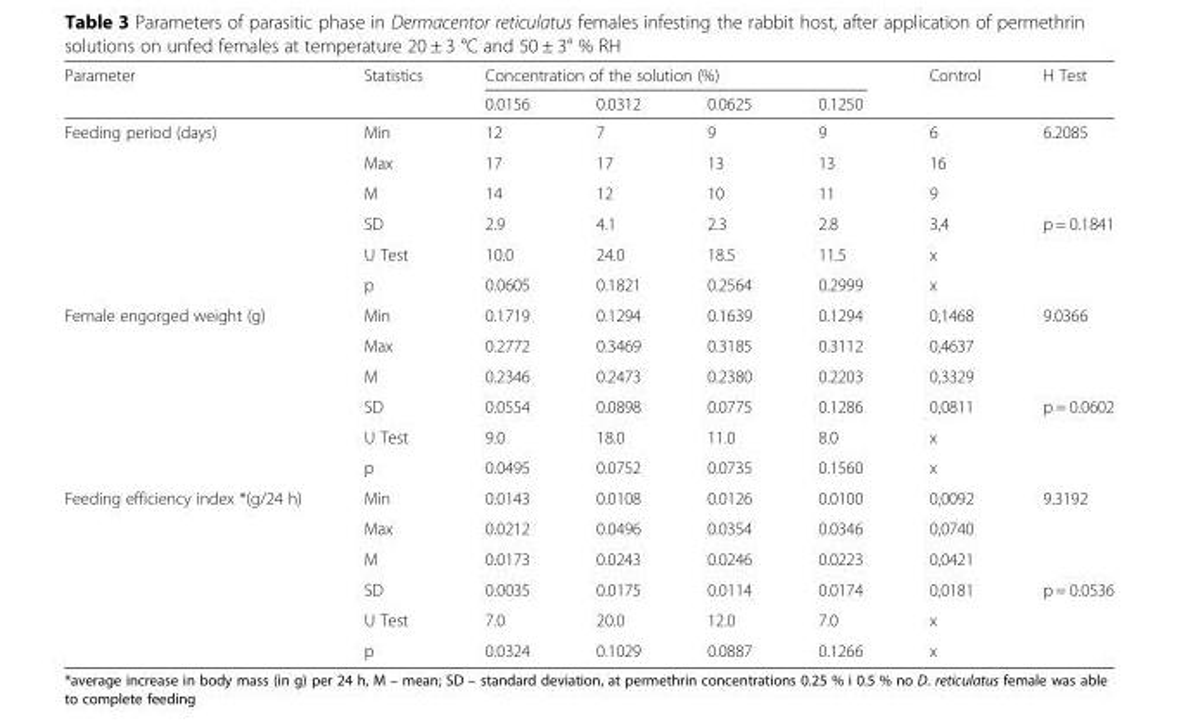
<table><thead><tr><td rowspan="2">Parameter</td><td rowspan="2">Statistics</td><td colspan="4">Concentration of the solution (%)</td><td rowspan="2">Control</td><td rowspan="2">H Test</td></tr><tr><td>0.0156</td><td>0.0312</td><td>0.0625</td><td>0.1250</td></tr></thead><tbody><tr><td rowspan="6">Feeding period (days)</td><td>Min</td><td>12</td><td>7</td><td>9</td><td>9</td><td>6</td><td rowspan="3">6.2085</td></tr><tr><td>Max</td><td>17</td><td>17</td><td>13</td><td>13</td><td>16</td></tr><tr><td>M</td><td>14</td><td>12</td><td>10</td><td>11</td><td>9</td></tr><tr><td>SD</td><td>2.9</td><td>4.1</td><td>2.3</td><td>2.8</td><td>3,4</td><td rowspan="3">p = 0.1841</td></tr><tr><td>U Test</td><td>10.0</td><td>24.0</td><td>18.5</td><td>11.5</td><td>x</td></tr><tr><td>p</td><td>0.0605</td><td>0.1821</td><td>0.2564</td><td>0.2999</td><td>x</td></tr><tr><td rowspan="6">Female engorged weight (g)</td><td>Min</td><td>0.1719</td><td>0.1294</td><td>0.1639</td><td>0.1294</td><td>0,1468</td><td rowspan="3">9.0366</td></tr><tr><td>Max</td><td>0.2772</td><td>0.3469</td><td>0.3185</td><td>0.3112</td><td>0,4637</td></tr><tr><td>M</td><td>0.2346</td><td>0.2473</td><td>0.2380</td><td>0.2203</td><td>0,3329</td></tr><tr><td>SD</td><td>0.0554</td><td>0.0898</td><td>0.0775</td><td>0.1286</td><td>0,0811</td><td rowspan="3">p = 0.0602</td></tr><tr><td>U Test</td><td>9.0</td><td>18.0</td><td>11.0</td><td>8.0</td><td>x</td></tr><tr><td>p</td><td>0.0495</td><td>0.0752</td><td>0.0735</td><td>0.1560</td><td>x</td></tr><tr><td rowspan="6">Feeding efficiency index *(g/24 h)</td><td>Min</td><td>0.0143</td><td>0.0108</td><td>0.0126</td><td>0.0100</td><td>0,0092</td><td rowspan="3">9.3192</td></tr><tr><td>Max</td><td>0.0212</td><td>0.0496</td><td>0.0354</td><td>0.0346</td><td>0,0740</td></tr><tr><td>M</td><td>0.0173</td><td>0.0243</td><td>0.0246</td><td>0.0223</td><td>0,0421</td></tr><tr><td>SD</td><td>0.0035</td><td>0.0175</td><td>0.0114</td><td>0.0174</td><td>0,0181</td><td rowspan="3">p = 0.0536</td></tr><tr><td>U Test</td><td>7.0</td><td>20.0</td><td>12.0</td><td>7.0</td><td>x</td></tr><tr><td>p</td><td>0.0324</td><td>0.1029</td><td>0.0887</td><td>0.1266</td><td>x</td></tr></tbody></table>